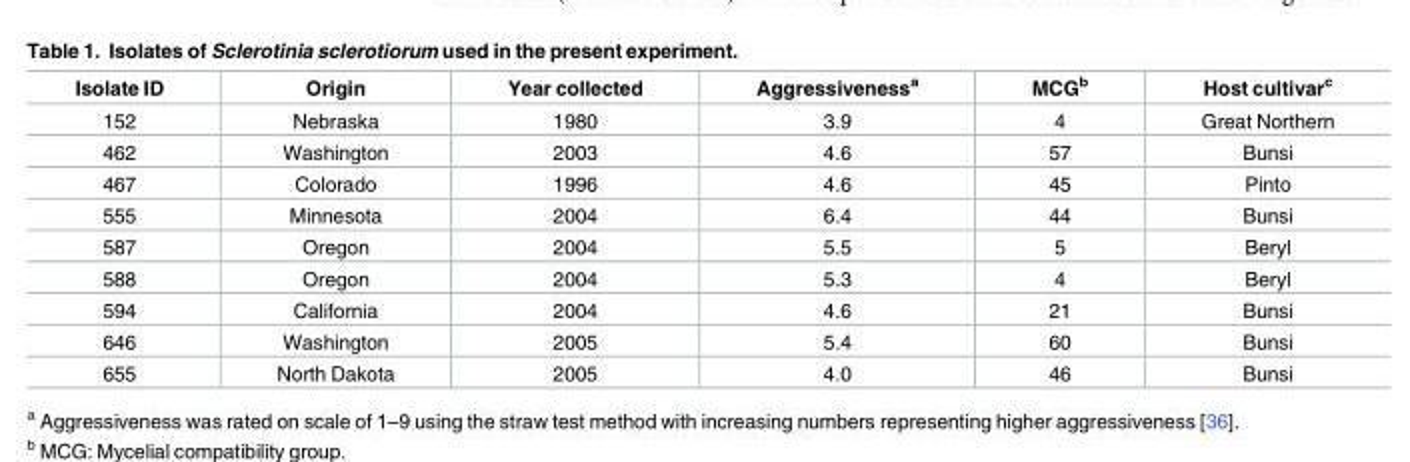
<table><thead><tr><td>Isolate ID</td><td>Origin</td><td>Year collected</td><td>Aggressiveness<sup>a</sup></td><td>MCG<sup>b</sup></td><td>Host cultivar<sup>c</sup></td></tr></thead><tbody><tr><td>152</td><td>Nebraska</td><td>1980</td><td>3.9</td><td>4</td><td>Great Northern</td></tr><tr><td>462</td><td>Washington</td><td>2003</td><td>4.6</td><td>57</td><td>Bunsi</td></tr><tr><td>467</td><td>Colorado</td><td>1996</td><td>4.6</td><td>45</td><td>Pinto</td></tr><tr><td>555</td><td>Minnesota</td><td>2004</td><td>6.4</td><td>44</td><td>Bunsi</td></tr><tr><td>587</td><td>Oregon</td><td>2004</td><td>5.5</td><td>5</td><td>Beryl</td></tr><tr><td>588</td><td>Oregon</td><td>2004</td><td>5.3</td><td>4</td><td>Beryl</td></tr><tr><td>594</td><td>California</td><td>2004</td><td>4.6</td><td>21</td><td>Bunsi</td></tr><tr><td>646</td><td>Washington</td><td>2005</td><td>5.4</td><td>60</td><td>Bunsi</td></tr><tr><td>655</td><td>North Dakota</td><td>2005</td><td>4.0</td><td>46</td><td>Bunsi</td></tr></tbody></table>